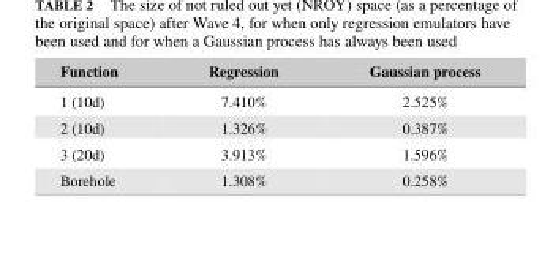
<table><thead><tr><td>Function</td><td>Regression</td><td>Gaussian process</td></tr></thead><tbody><tr><td>1 (10d)</td><td>7.410%</td><td>2.525%</td></tr><tr><td>2 (10d)</td><td>1.326%</td><td>0.387%</td></tr><tr><td>3 (20d)</td><td>3.913%</td><td>1.596%</td></tr><tr><td>Borehole</td><td>1.308%</td><td>0.258%</td></tr></tbody></table>